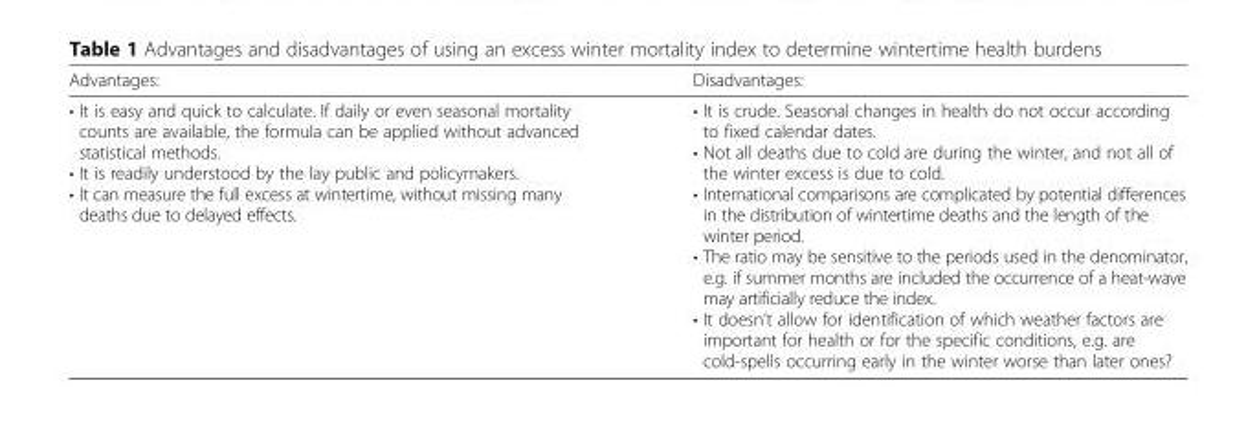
<table><thead><tr><td>Advantages:</td><td>Disadvantages:</td></tr></thead><tbody><tr><td>• It is easy and quick to calculate. If daily or even seasonal mortality counts are available, the formula can be applied without advanced statistical methods. • It is readily understood by the lay public and policymakers. • It can measure the full excess at wintertime, without missing many deaths due to delayed effects.</td><td>• It is crude. Seasonal changes in health do not occur according to fixed calendar dates. • Not all deaths due to cold are during the winter, and not all of the winter excess is due to cold. • International comparisons are complicated by potential differences in the distribution of wintertime deaths and the length of the winter period. • The ratio may be sensitive to the periods used in the denominator, e.g. if summer months are included the occurrence of a heat-wave may artificially reduce the index. • It doesn’t allow for identification of which weather factors are important for health or for the specific conditions, e.g. are cold-spells occurring early in the winter worse than later ones?</td></tr></tbody></table>